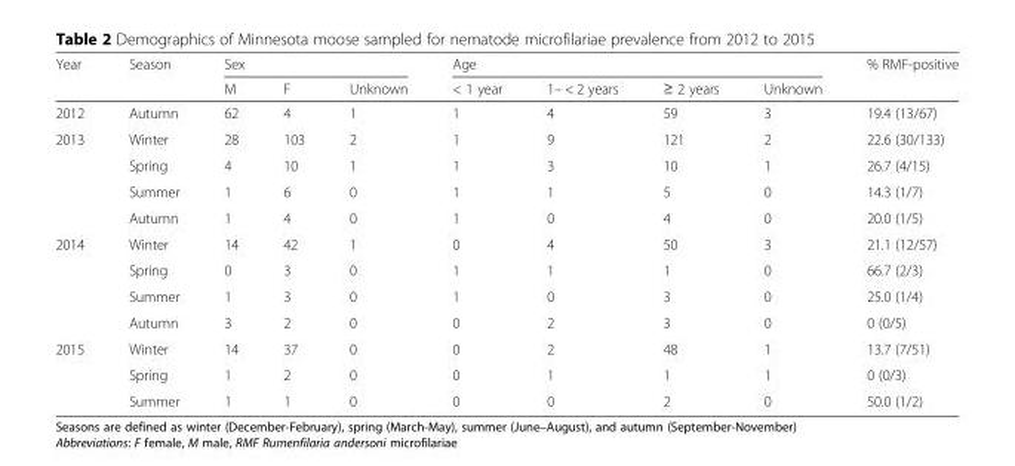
<table><thead><tr><td rowspan="2">Year</td><td rowspan="2">Season</td><td colspan="3">Sex</td><td colspan="4">Age</td><td rowspan="2">% RMF-positive</td></tr><tr><td>M</td><td>F</td><td>Unknown</td><td>&lt; 1 year</td><td>1– &lt; 2 years</td><td>≥ 2 years</td><td>Unknown</td></tr></thead><tbody><tr><td>2012</td><td>Autumn</td><td>62</td><td>4</td><td>1</td><td>1</td><td>4</td><td>59</td><td>3</td><td>19.4 (13/67)</td></tr><tr><td rowspan="4">2013</td><td>Winter</td><td>28</td><td>103</td><td>2</td><td>1</td><td>9</td><td>121</td><td>2</td><td>22.6 (30/133)</td></tr><tr><td>Spring</td><td>4</td><td>10</td><td>1</td><td>1</td><td>3</td><td>10</td><td>1</td><td>26.7 (4/15)</td></tr><tr><td>Summer</td><td>1</td><td>6</td><td>0</td><td>1</td><td>1</td><td>5</td><td>0</td><td>14.3 (1/7)</td></tr><tr><td>Autumn</td><td>1</td><td>4</td><td>0</td><td>1</td><td>0</td><td>4</td><td>0</td><td>20.0 (1/5)</td></tr><tr><td rowspan="4">2014</td><td>Winter</td><td>14</td><td>42</td><td>1</td><td>0</td><td>4</td><td>50</td><td>3</td><td>21.1 (12/57)</td></tr><tr><td>Spring</td><td>0</td><td>3</td><td>0</td><td>1</td><td>1</td><td>1</td><td>0</td><td>66.7 (2/3)</td></tr><tr><td>Summer</td><td>1</td><td>3</td><td>0</td><td>1</td><td>0</td><td>3</td><td>0</td><td>25.0 (1/4)</td></tr><tr><td>Autumn</td><td>3</td><td>2</td><td>0</td><td>0</td><td>2</td><td>3</td><td>0</td><td>0 (0/5)</td></tr><tr><td rowspan="3">2015</td><td>Winter</td><td>14</td><td>37</td><td>0</td><td>0</td><td>2</td><td>48</td><td>1</td><td>13.7 (7/51)</td></tr><tr><td>Spring</td><td>1</td><td>2</td><td>0</td><td>0</td><td>1</td><td>1</td><td>1</td><td>0 (0/3)</td></tr><tr><td>Summer</td><td>1</td><td>1</td><td>0</td><td>0</td><td>0</td><td>2</td><td>0</td><td>50.0 (1/2)</td></tr></tbody></table>